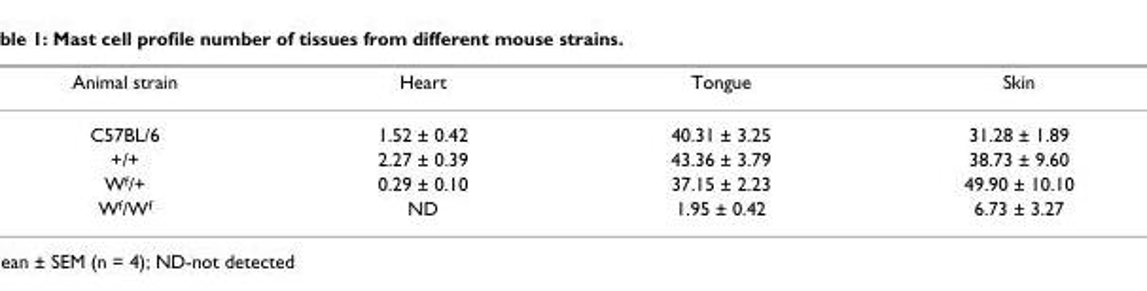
<table><thead><tr><td>Animal strain</td><td>Heart</td><td>Tongue</td><td>Skin</td></tr></thead><tbody><tr><td>C57BL/6</td><td>1.52 ± 0.42</td><td>40.31 ± 3.25</td><td>31.28 ± 1.89</td></tr><tr><td>+/+</td><td>2.27 ± 0.39</td><td>43.36 ± 3.79</td><td>38.73 ± 9.60</td></tr><tr><td>W<sup>f</sup>/+</td><td>0.29 ± 0.10</td><td>37.15 ± 2.23</td><td>49.90 ± 10.10</td></tr><tr><td>W<sup>f</sup>/W<sup>f</sup></td><td>ND</td><td>1.95 ± 0.42</td><td>6.73 ± 3.27</td></tr></tbody></table>